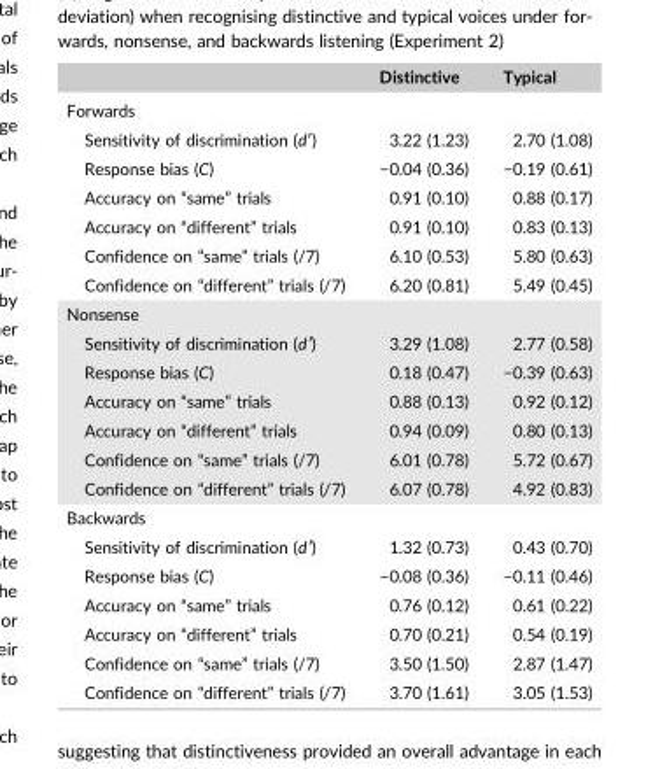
<table><thead><tr><td></td><td>Distinctive</td><td>Typical</td></tr></thead><tbody><tr><td colspan="3">Forwards</td></tr><tr><td>Sensitivity of discrimination (d′)</td><td>3.22 (1.23)</td><td>2.70 (1.08)</td></tr><tr><td>Response bias (C)</td><td>−0.04 (0.36)</td><td>−0.19 (0.61)</td></tr><tr><td>Accuracy on “same” trials</td><td>0.91 (0.10)</td><td>0.88 (0.17)</td></tr><tr><td>Accuracy on “different” trials</td><td>0.91 (0.10)</td><td>0.83 (0.13)</td></tr><tr><td>Confidence on “same” trials (/7)</td><td>6.10 (0.53)</td><td>5.80 (0.63)</td></tr><tr><td>Confidence on “different” trials (/7)</td><td>6.20 (0.81)</td><td>5.49 (0.45)</td></tr><tr><td colspan="3">Nonsense</td></tr><tr><td>Sensitivity of discrimination (d′)</td><td>3.29 (1.08)</td><td>2.77 (0.58)</td></tr><tr><td>Response bias (C)</td><td>0.18 (0.47)</td><td>−0.39 (0.63)</td></tr><tr><td>Accuracy on “same” trials</td><td>0.88 (0.13)</td><td>0.92 (0.12)</td></tr><tr><td>Accuracy on “different” trials</td><td>0.94 (0.09)</td><td>0.80 (0.13)</td></tr><tr><td>Confidence on “same” trials (/7)</td><td>6.01 (0.78)</td><td>5.72 (0.67)</td></tr><tr><td>Confidence on “different” trials (/7)</td><td>6.07 (0.78)</td><td>4.92 (0.83)</td></tr><tr><td colspan="3">Backwards</td></tr><tr><td>Sensitivity of discrimination (d′)</td><td>1.32 (0.73)</td><td>0.43 (0.70)</td></tr><tr><td>Response bias (C)</td><td>−0.08 (0.36)</td><td>−0.11 (0.46)</td></tr><tr><td>Accuracy on “same” trials</td><td>0.76 (0.12)</td><td>0.61 (0.22)</td></tr><tr><td>Accuracy on “different” trials</td><td>0.70 (0.21)</td><td>0.54 (0.19)</td></tr><tr><td>Confidence on “same” trials (/7)</td><td>3.50 (1.50)</td><td>2.87 (1.47)</td></tr><tr><td>Confidence on “different” trials (/7)</td><td>3.70 (1.61)</td><td>3.05 (1.53)</td></tr></tbody></table>